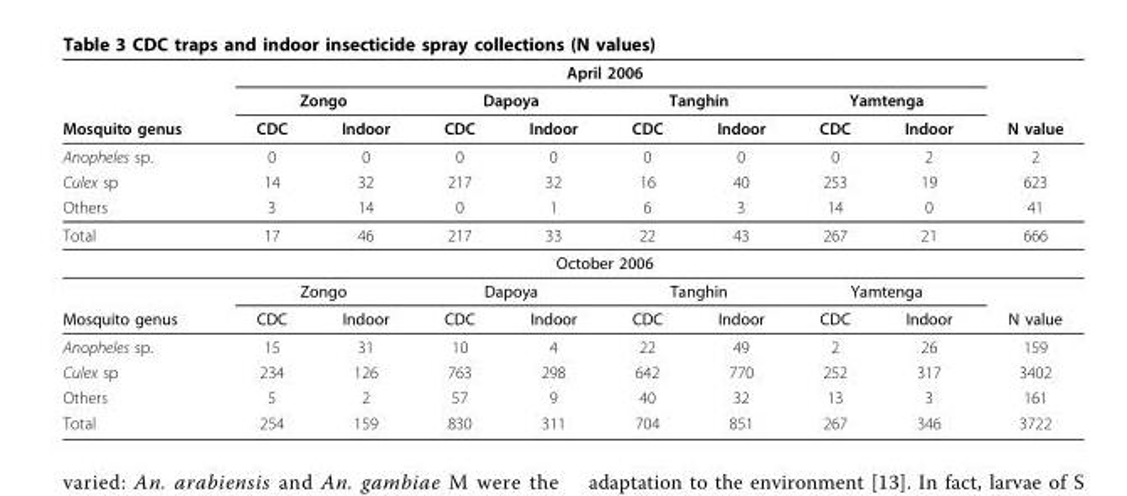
<table><thead><tr><td rowspan="6">Mosquito genus Anopheles sp. Culex sp Others</td><td colspan="8">April 2006</td><td rowspan="6">N value 2 623 41</td></tr><tr><td colspan="2">Zongo</td><td colspan="2">Dapoya</td><td colspan="2">Tanghin</td><td colspan="2">Yamtenga</td></tr><tr><td rowspan="4">CDC 0 14 3</td><td rowspan="4">Indoor 0 32 14</td><td rowspan="4">CDC 0 217 0</td><td rowspan="4">Indoor 0 32 1</td><td rowspan="4">CDC 0 16 6</td><td rowspan="4">Indoor 0 40 3</td><td rowspan="4">CDC 0 253 14</td><td rowspan="4">Indoor 2 19 0</td></tr><tr></tr><tr></tr><tr></tr></thead><tbody><tr><td rowspan="3">Total</td><td>17</td><td>46</td><td>217</td><td>33</td><td>22</td><td>43</td><td>267</td><td>21</td><td>666</td></tr><tr><td colspan="8">October 2006</td><td></td></tr><tr><td colspan="2">Zongo</td><td colspan="2">Dapoya</td><td colspan="2">Tanghin</td><td colspan="2">Yamtenga</td><td></td></tr><tr><td>Mosquito genus</td><td>CDC</td><td>Indoor</td><td>CDC</td><td>Indoor</td><td>CDC</td><td>Indoor</td><td>CDC</td><td>Indoor</td><td>N value</td></tr><tr><td>Anopheles sp.</td><td>15</td><td>31</td><td>10</td><td>4</td><td>22</td><td>49</td><td>2</td><td>26</td><td>159</td></tr><tr><td>Culex sp</td><td>234</td><td>126</td><td>763</td><td>298</td><td>642</td><td>770</td><td>252</td><td>317</td><td>3402</td></tr><tr><td>Others</td><td>5</td><td>2</td><td>57</td><td>9</td><td>40</td><td>32</td><td>13</td><td>3</td><td>161</td></tr><tr><td>Total</td><td>254</td><td>159</td><td>830</td><td>311</td><td>704</td><td>851</td><td>267</td><td>346</td><td>3722</td></tr></tbody></table>